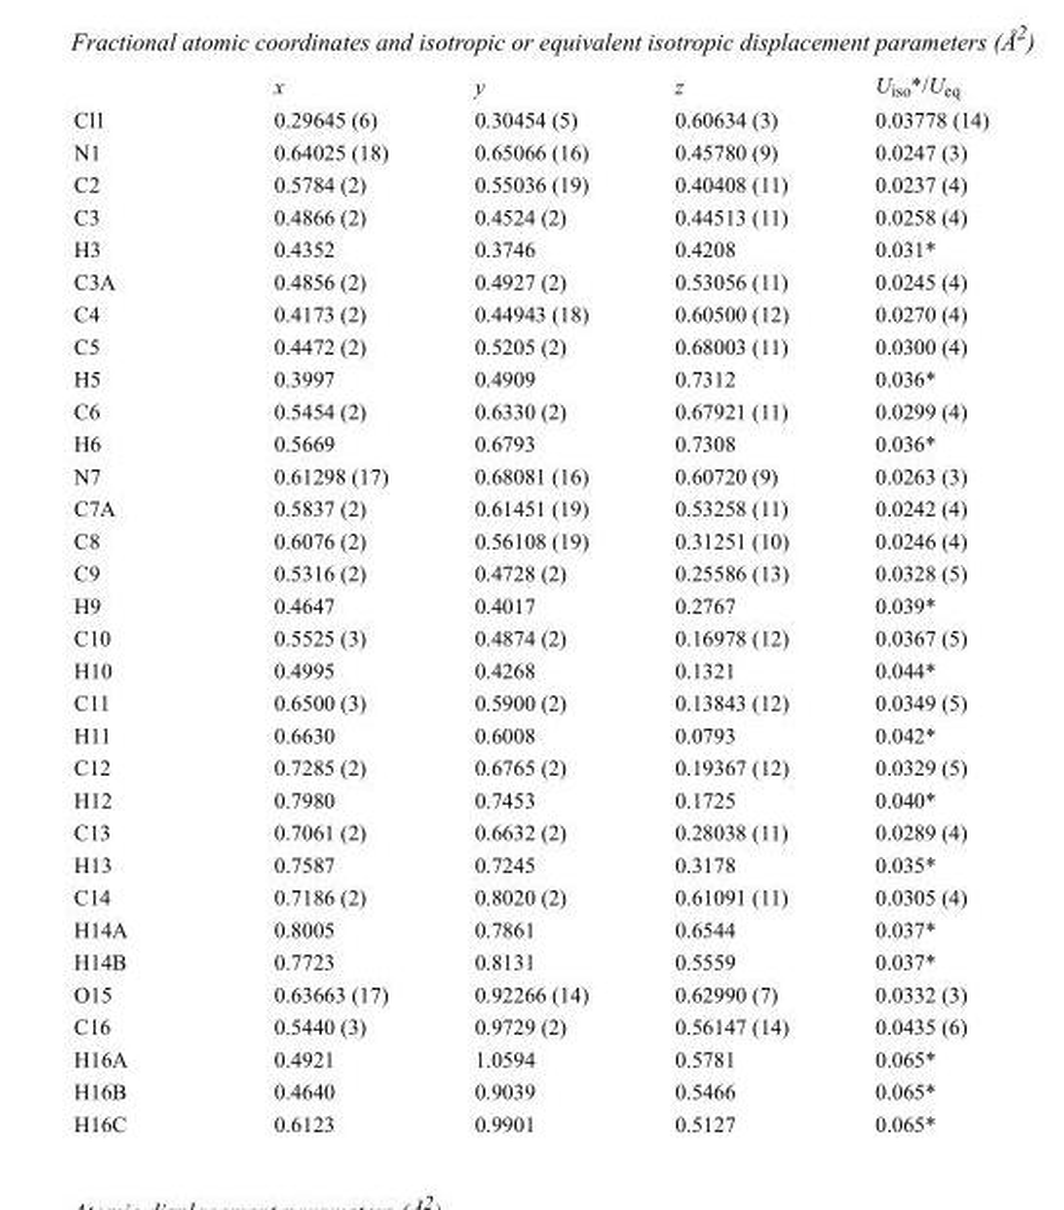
<table><thead><tr><td></td><td>x</td><td>y</td><td>z</td><td>U<sub>iso</sub>*/U<sub>eq</sub></td></tr></thead><tbody><tr><td>Cl1</td><td>0.29645 (6)</td><td>0.30454 (5)</td><td>0.60634 (3)</td><td>0.03778 (14)</td></tr><tr><td>N1</td><td>0.64025 (18)</td><td>0.65066 (16)</td><td>0.45780 (9)</td><td>0.0247 (3)</td></tr><tr><td>C2</td><td>0.5784 (2)</td><td>0.55036 (19)</td><td>0.40408 (11)</td><td>0.0237 (4)</td></tr><tr><td>C3</td><td>0.4866 (2)</td><td>0.4524 (2)</td><td>0.44513 (11)</td><td>0.0258 (4)</td></tr><tr><td>H3</td><td>0.4352</td><td>0.3746</td><td>0.4208</td><td>0.031*</td></tr><tr><td>C3A</td><td>0.4856 (2)</td><td>0.4927 (2)</td><td>0.53056 (11)</td><td>0.0245 (4)</td></tr><tr><td>C4</td><td>0.4173 (2)</td><td>0.44943 (18)</td><td>0.60500 (12)</td><td>0.0270 (4)</td></tr><tr><td>C5</td><td>0.4472 (2)</td><td>0.5205 (2)</td><td>0.68003 (11)</td><td>0.0300 (4)</td></tr><tr><td>H5</td><td>0.3997</td><td>0.4909</td><td>0.7312</td><td>0.036*</td></tr><tr><td>C6</td><td>0.5454 (2)</td><td>0.6330 (2)</td><td>0.67921 (11)</td><td>0.0299 (4)</td></tr><tr><td>H6</td><td>0.5669</td><td>0.6793</td><td>0.7308</td><td>0.036*</td></tr><tr><td>N7</td><td>0.61298 (17)</td><td>0.68081 (16)</td><td>0.60720 (9)</td><td>0.0263 (3)</td></tr><tr><td>C7A</td><td>0.5837 (2)</td><td>0.61451 (19)</td><td>0.53258 (11)</td><td>0.0242 (4)</td></tr><tr><td>C8</td><td>0.6076 (2)</td><td>0.56108 (19)</td><td>0.31251 (10)</td><td>0.0246 (4)</td></tr><tr><td>C9</td><td>0.5316 (2)</td><td>0.4728 (2)</td><td>0.25586 (13)</td><td>0.0328 (5)</td></tr><tr><td>H9</td><td>0.4647</td><td>0.4017</td><td>0.2767</td><td>0.039*</td></tr><tr><td>C10</td><td>0.5525 (3)</td><td>0.4874 (2)</td><td>0.16978 (12)</td><td>0.0367 (5)</td></tr><tr><td>H10</td><td>0.4995</td><td>0.4268</td><td>0.1321</td><td>0.044*</td></tr><tr><td>C11</td><td>0.6500 (3)</td><td>0.5900 (2)</td><td>0.13843 (12)</td><td>0.0349 (5)</td></tr><tr><td>H11</td><td>0.6630</td><td>0.6008</td><td>0.0793</td><td>0.042*</td></tr><tr><td>C12</td><td>0.7285 (2)</td><td>0.6765 (2)</td><td>0.19367 (12)</td><td>0.0329 (5)</td></tr><tr><td>H12</td><td>0.7980</td><td>0.7453</td><td>0.1725</td><td>0.040*</td></tr><tr><td>C13</td><td>0.7061 (2)</td><td>0.6632 (2)</td><td>0.28038 (11)</td><td>0.0289 (4)</td></tr><tr><td>H13</td><td>0.7587</td><td>0.7245</td><td>0.3178</td><td>0.035*</td></tr><tr><td>C14</td><td>0.7186 (2)</td><td>0.8020 (2)</td><td>0.61091 (11)</td><td>0.0305 (4)</td></tr><tr><td>H14A</td><td>0.8005</td><td>0.7861</td><td>0.6544</td><td>0.037*</td></tr><tr><td>H14B</td><td>0.7723</td><td>0.8131</td><td>0.5559</td><td>0.037*</td></tr><tr><td>O15</td><td>0.63663 (17)</td><td>0.92266 (14)</td><td>0.62990 (7)</td><td>0.0332 (3)</td></tr><tr><td>C16</td><td>0.5440 (3)</td><td>0.9729 (2)</td><td>0.56147 (14)</td><td>0.0435 (6)</td></tr><tr><td>H16A</td><td>0.4921</td><td>1.0594</td><td>0.5781</td><td>0.065*</td></tr><tr><td>H16B</td><td>0.4640</td><td>0.9039</td><td>0.5466</td><td>0.065*</td></tr><tr><td>H16C</td><td>0.6123</td><td>0.9901</td><td>0.5127</td><td>0.065*</td></tr></tbody></table>